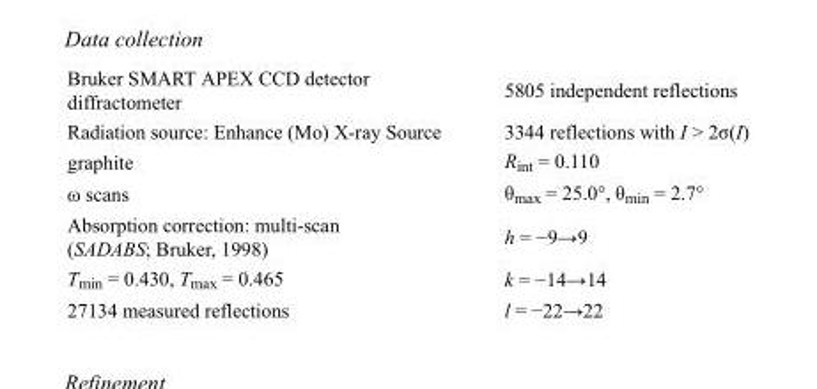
<table><tbody><tr><td>Bruker SMART APEX CCD detector diffractometer</td><td>5805 independent reflections</td></tr><tr><td>Radiation source: Enhance (Mo) X-ray Source</td><td>3344 reflections with I &gt; 2σ(I)</td></tr><tr><td>graphite</td><td>R<sub>int</sub> = 0.110</td></tr><tr><td>ω scans</td><td>θ<sub>max</sub> = 25.0°, θ<sub>min</sub> = 2.7°</td></tr><tr><td>Absorption correction: multi-scan (SADABS; Bruker, 1998)</td><td>h = −9→9</td></tr><tr><td>T<sub>min</sub> = 0.430, T<sub>max</sub> = 0.465</td><td>k = −14→14</td></tr><tr><td>27134 measured reflections</td><td>l = −22→22</td></tr></tbody></table>